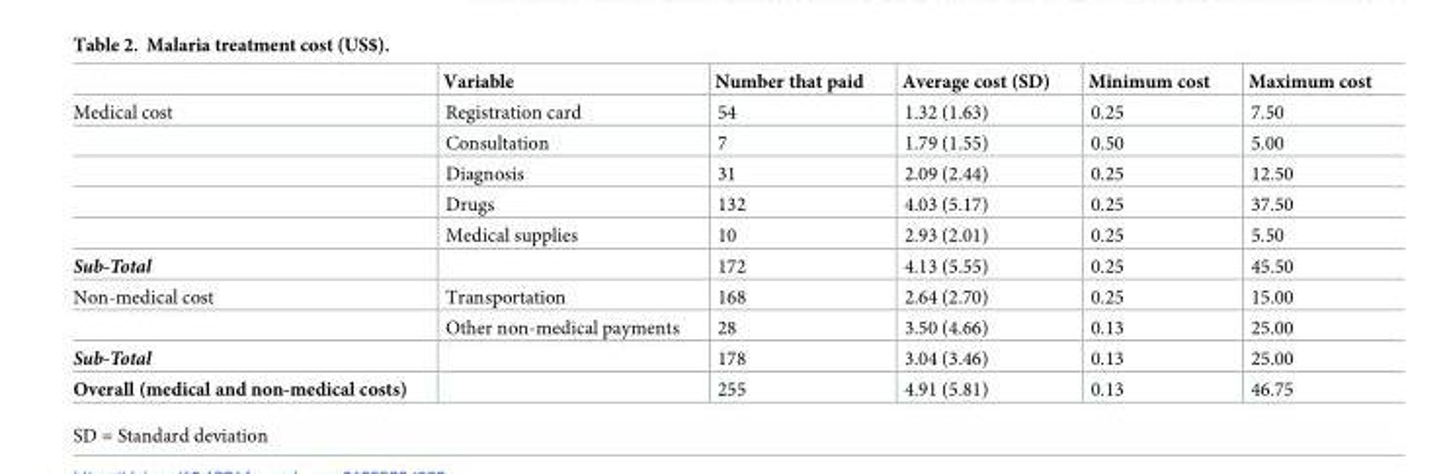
<table><thead><tr><td></td><td>Variable</td><td>Number that paid</td><td>Average cost (SD)</td><td>Minimum cost</td><td>Maximum cost</td></tr></thead><tbody><tr><td rowspan="5">Medical cost</td><td>Registration card</td><td>54</td><td>1.32 (1.63)</td><td>0.25</td><td>7.50</td></tr><tr><td>Consultation</td><td>7</td><td>1.79 (1.55)</td><td>0.50</td><td>5.00</td></tr><tr><td>Diagnosis</td><td>31</td><td>2.09 (2.44)</td><td>0.25</td><td>12.50</td></tr><tr><td>Drugs</td><td>132</td><td>4.03 (5.17)</td><td>0.25</td><td>37.50</td></tr><tr><td>Medical supplies</td><td>10</td><td>2.93 (2.01)</td><td>0.25</td><td>5.50</td></tr><tr><td>Sub-Total</td><td></td><td>172</td><td>4.13 (5.55)</td><td>0.25</td><td>45.50</td></tr><tr><td rowspan="2">Non-medical cost</td><td>Transportation</td><td>168</td><td>2.64 (2.70)</td><td>0.25</td><td>15.00</td></tr><tr><td>Other non-medical payments</td><td>28</td><td>3.50 (4.66)</td><td>0.13</td><td>25.00</td></tr><tr><td>Sub-Total</td><td></td><td>178</td><td>3.04 (3.46)</td><td>0.13</td><td>25.00</td></tr><tr><td>Overall (medical and non-medical costs)</td><td></td><td>255</td><td>4.91 (5.81)</td><td>0.13</td><td>46.75</td></tr></tbody></table>